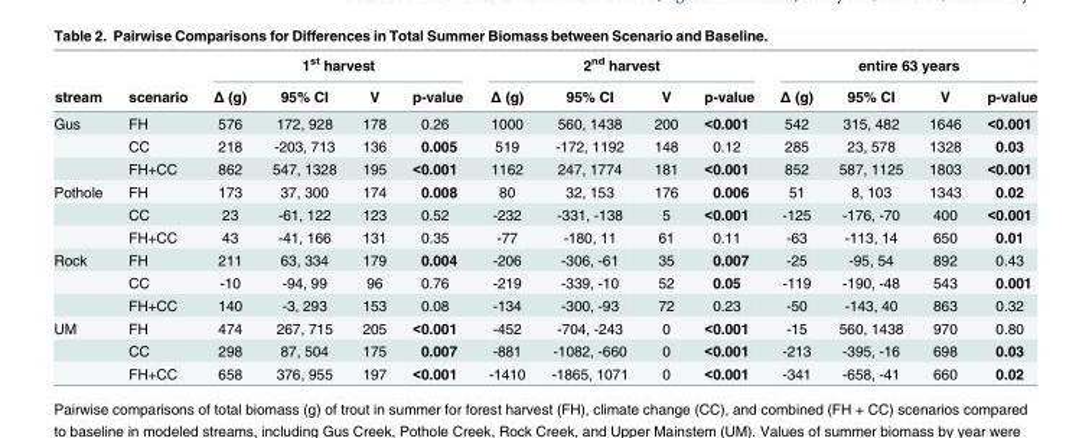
<table><thead><tr><td rowspan="2">stream</td><td rowspan="2">scenario</td><td colspan="4">1<sup>st</sup> harvest</td><td colspan="4">2<sup>nd</sup> harvest</td><td colspan="4">entire 63 years</td></tr><tr><td>Δ (g)</td><td>95% CI</td><td>V</td><td>p-value</td><td>Δ (g)</td><td>95% CI</td><td>V</td><td>p-value</td><td>Δ (g)</td><td>95% CI</td><td>V</td><td>p-value</td></tr></thead><tbody><tr><td rowspan="3">Gus</td><td>FH</td><td>576</td><td>172, 928</td><td>178</td><td>0.26</td><td>1000</td><td>560, 1438</td><td>200</td><td>&lt;0.001</td><td>542</td><td>315, 482</td><td>1646</td><td>&lt;0.001</td></tr><tr><td>CC</td><td>218</td><td>-203, 713</td><td>136</td><td>0.005</td><td>519</td><td>-172, 1192</td><td>148</td><td>0.12</td><td>285</td><td>23, 578</td><td>1328</td><td>0.03</td></tr><tr><td>FH+CC</td><td>862</td><td>547, 1328</td><td>195</td><td>&lt;0.001</td><td>1162</td><td>247, 1774</td><td>181</td><td>&lt;0.001</td><td>852</td><td>587, 1125</td><td>1803</td><td>&lt;0.001</td></tr><tr><td rowspan="3">Pothole</td><td>FH</td><td>173</td><td>37, 300</td><td>174</td><td>0.008</td><td>80</td><td>32, 153</td><td>176</td><td>0.006</td><td>51</td><td>8, 103</td><td>1343</td><td>0.02</td></tr><tr><td>CC</td><td>23</td><td>-61, 122</td><td>123</td><td>0.52</td><td>-232</td><td>-331, -138</td><td>5</td><td>&lt;0.001</td><td>-125</td><td>-176, -70</td><td>400</td><td>&lt;0.001</td></tr><tr><td>FH+CC</td><td>43</td><td>-41, 166</td><td>131</td><td>0.35</td><td>-77</td><td>-180, 11</td><td>61</td><td>0.11</td><td>-63</td><td>-113, 14</td><td>650</td><td>0.01</td></tr><tr><td rowspan="3">Rock</td><td>FH</td><td>211</td><td>63, 334</td><td>179</td><td>0.004</td><td>-206</td><td>-306, -61</td><td>35</td><td>0.007</td><td>-25</td><td>-95, 54</td><td>892</td><td>0.43</td></tr><tr><td>CC</td><td>-10</td><td>-94, 99</td><td>96</td><td>0.76</td><td>-219</td><td>-339, -10</td><td>52</td><td>0.05</td><td>-119</td><td>-190, -48</td><td>543</td><td>0.001</td></tr><tr><td>FH+CC</td><td>140</td><td>-3, 293</td><td>153</td><td>0.08</td><td>-134</td><td>-300, -93</td><td>72</td><td>0.23</td><td>-50</td><td>-143, 40</td><td>863</td><td>0.32</td></tr><tr><td rowspan="3">UM</td><td>FH</td><td>474</td><td>267, 715</td><td>205</td><td>&lt;0.001</td><td>-452</td><td>-704, -243</td><td>0</td><td>&lt;0.001</td><td>-15</td><td>560, 1438</td><td>970</td><td>0.80</td></tr><tr><td>CC</td><td>298</td><td>87, 504</td><td>175</td><td>0.007</td><td>-881</td><td>-1082, -660</td><td>0</td><td>&lt;0.001</td><td>-213</td><td>-395, -16</td><td>698</td><td>0.03</td></tr><tr><td>FH+CC</td><td>658</td><td>376, 955</td><td>197</td><td>&lt;0.001</td><td>-1410</td><td>-1865, 1071</td><td>0</td><td>&lt;0.001</td><td>-341</td><td>-658, -41</td><td>660</td><td>0.02</td></tr></tbody></table>